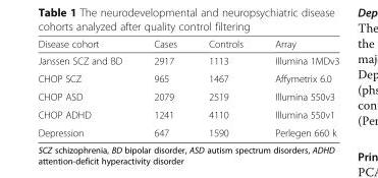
<table><thead><tr><td>Disease cohort</td><td>Cases</td><td>Controls</td><td>Array</td></tr></thead><tbody><tr><td>Janssen SCZ and BD</td><td>2917</td><td>1113</td><td>Illumina 1MDv3</td></tr><tr><td>CHOP SCZ</td><td>965</td><td>1467</td><td>Affymetrix 6.0</td></tr><tr><td>CHOP ASD</td><td>2079</td><td>2519</td><td>Illumina 550v3</td></tr><tr><td>CHOP ADHD</td><td>1241</td><td>4110</td><td>Illumina 550v1</td></tr><tr><td>Depression</td><td>647</td><td>1590</td><td>Perlegen 660 k</td></tr></tbody></table>